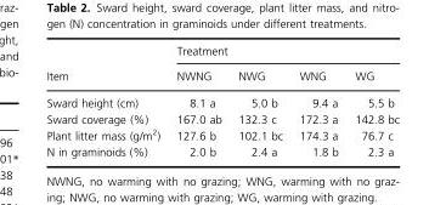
<table><thead><tr><td rowspan="2">Item</td><td colspan="4">Treatment</td></tr><tr><td>NWNG</td><td>NWG</td><td>WNG</td><td>WG</td></tr></thead><tbody><tr><td>Sward height (cm)</td><td>8.1 a</td><td>5.0 b</td><td>9.4 a</td><td>5.5 b</td></tr><tr><td>Sward coverage (%)</td><td>167.0 ab</td><td>132.3 c</td><td>172.3 a</td><td>142.8 bc</td></tr><tr><td>Plant litter mass (g/m<sup>2</sup>)</td><td>127.6 b</td><td>102.1 bc</td><td>174.3 a</td><td>76.7 c</td></tr><tr><td>N in graminoids (%)</td><td>2.0 b</td><td>2.4 a</td><td>1.8 b</td><td>2.3 a</td></tr></tbody></table>